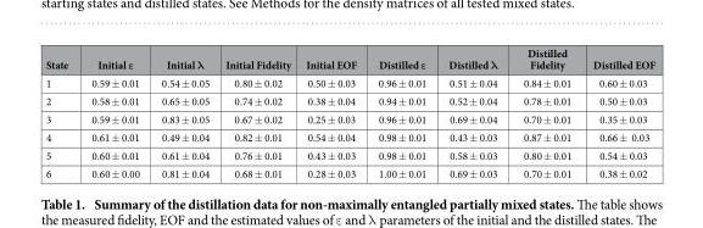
<table><thead><tr><td>State</td><td>Initial ε</td><td>Initial λ</td><td>Initial Fidelity</td><td>Initial EOF</td><td>Distilled ε</td><td>Distilled λ</td><td>Distilled Fidelity</td><td>Distilled EOF</td></tr></thead><tbody><tr><td>1</td><td>0.59 ± 0.01</td><td>0.54 ± 0.05</td><td>0.80 ± 0.02</td><td>0.50 ± 0.03</td><td>0.96 ± 0.01</td><td>0.51 ± 0.04</td><td>0.84 ± 0.01</td><td>0.60 ± 0.03</td></tr><tr><td>2</td><td>0.58 ± 0.01</td><td>0.65 ± 0.05</td><td>0.74 ± 0.02</td><td>0.38 ± 0.04</td><td>0.94 ± 0.01</td><td>0.52 ± 0.04</td><td>0.78 ± 0.01</td><td>0.50 ± 0.03</td></tr><tr><td>3</td><td>0.59 ± 0.01</td><td>0.83 ± 0.05</td><td>0.67 ± 0.02</td><td>0.25 ± 0.03</td><td>0.96 ± 0.01</td><td>0.69 ± 0.04</td><td>0.70 ± 0.01</td><td>0.35 ± 0.03</td></tr><tr><td>4</td><td>0.61 ± 0.01</td><td>0.49 ± 0.04</td><td>0.82 ± 0.01</td><td>0.54 ± 0.04</td><td>0.98 ± 0.01</td><td>0.43 ± 0.03</td><td>0.87 ± 0.01</td><td>0.66 ± 0.03</td></tr><tr><td>5</td><td>0.60 ± 0.01</td><td>0.61 ± 0.04</td><td>0.76 ± 0.01</td><td>0.43 ± 0.03</td><td>0.98 ± 0.01</td><td>0.58 ± 0.03</td><td>0.80 ± 0.01</td><td>0.54 ± 0.03</td></tr><tr><td>6</td><td>0.60 ± 0.00</td><td>0.81 ± 0.04</td><td>0.68 ± 0.01</td><td>0.28 ± 0.03</td><td>1.00 ± 0.01</td><td>0.69 ± 0.03</td><td>0.70 ± 0.01</td><td>0.38 ± 0.02</td></tr></tbody></table>